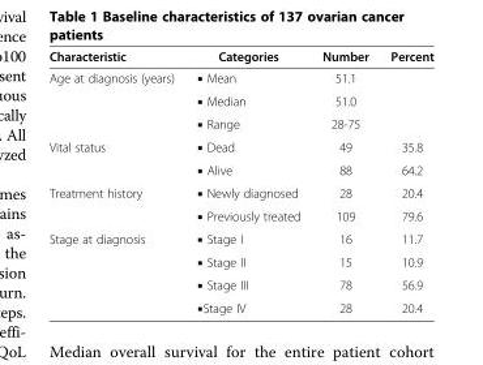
<table><thead><tr><td>Characteristic</td><td>Categories</td><td>Number</td><td>Percent</td></tr></thead><tbody><tr><td rowspan="3">Age at diagnosis (years)</td><td>▪ Mean</td><td>51.1</td><td rowspan="3"></td></tr><tr><td>▪ Median</td><td>51.0</td></tr><tr><td>▪ Range</td><td>28-75</td></tr><tr><td rowspan="2">Vital status</td><td>▪ Dead</td><td>49</td><td>35.8</td></tr><tr><td>▪ Alive</td><td>88</td><td>64.2</td></tr><tr><td rowspan="2">Treatment history</td><td>▪ Newly diagnosed</td><td>28</td><td>20.4</td></tr><tr><td>▪ Previously treated</td><td>109</td><td>79.6</td></tr><tr><td rowspan="4">Stage at diagnosis</td><td>▪ Stage I</td><td>16</td><td>11.7</td></tr><tr><td>▪ Stage II</td><td>15</td><td>10.9</td></tr><tr><td>▪ Stage III</td><td>78</td><td>56.9</td></tr><tr><td>▪Stage IV</td><td>28</td><td>20.4</td></tr></tbody></table>